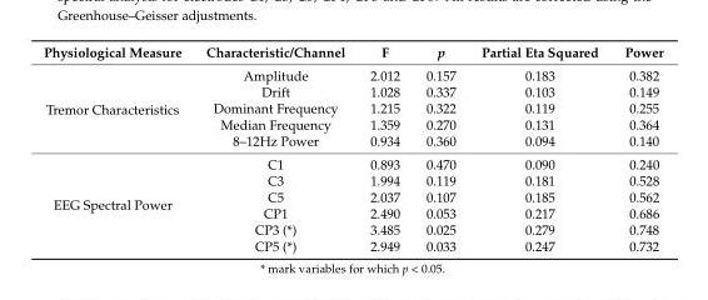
<table><thead><tr><td>Physiological Measure</td><td>Characteristic/Channel</td><td>F</td><td>p</td><td>Partial Eta Squared</td><td>Power</td></tr></thead><tbody><tr><td rowspan="5">Tremor Characteristics</td><td>Amplitude</td><td>2.012</td><td>0.157</td><td>0.183</td><td>0.382</td></tr><tr><td>Drift</td><td>1.028</td><td>0.337</td><td>0.103</td><td>0.149</td></tr><tr><td>Dominant Frequency</td><td>1.215</td><td>0.322</td><td>0.119</td><td>0.255</td></tr><tr><td>Median Frequency</td><td>1.359</td><td>0.270</td><td>0.131</td><td>0.364</td></tr><tr><td>8–12Hz Power</td><td>0.934</td><td>0.360</td><td>0.094</td><td>0.140</td></tr><tr><td rowspan="6">EEG Spectral Power</td><td>C1</td><td>0.893</td><td>0.470</td><td>0.090</td><td>0.240</td></tr><tr><td>C3</td><td>1.994</td><td>0.119</td><td>0.181</td><td>0.528</td></tr><tr><td>C5</td><td>2.037</td><td>0.107</td><td>0.185</td><td>0.562</td></tr><tr><td>CP1</td><td>2.490</td><td>0.053</td><td>0.217</td><td>0.686</td></tr><tr><td>CP3 (*)</td><td>3.485</td><td>0.025</td><td>0.279</td><td>0.748</td></tr><tr><td>CP5 (*)</td><td>2.949</td><td>0.033</td><td>0.247</td><td>0.732</td></tr></tbody></table>